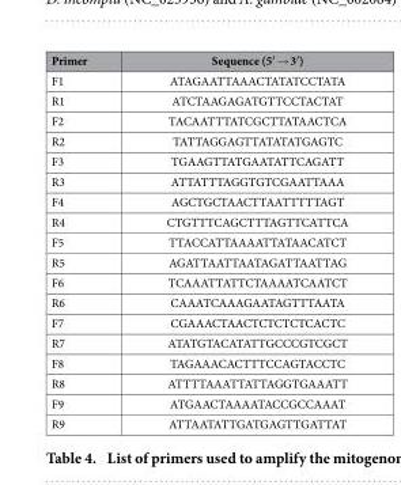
<table><thead><tr><td>Primer</td><td>Sequence (5′ → 3′ )</td></tr></thead><tbody><tr><td>F1</td><td>ATAGAATTAAACTATATCCTATA</td></tr><tr><td>R1</td><td>ATCTAAGAGATGTTCCTACTAT</td></tr><tr><td>F2</td><td>TACAATTTATCGCTTATAACTCA</td></tr><tr><td>R2</td><td>TATTAGGAGTTATATATGAGTC</td></tr><tr><td>F3</td><td>TGAAGTTATGAATATTCAGATT</td></tr><tr><td>R3</td><td>ATTATTTAGGTGTCGAATTAAA</td></tr><tr><td>F4</td><td>AGCTGCTAACTTAATTTTTAGT</td></tr><tr><td>R4</td><td>CTGTTTCAGCTTTAGTTCATTCA</td></tr><tr><td>F5</td><td>TTACCATTAAAATTATAACATCT</td></tr><tr><td>R5</td><td>AGATTAATTAATAGATTAATTAG</td></tr><tr><td>F6</td><td>TCAAATTATTCTAAAATCAATCT</td></tr><tr><td>R6</td><td>CAAATCAAAGAATAGTTTAATA</td></tr><tr><td>F7</td><td>CGAAACTAACTCTCTCTCACTC</td></tr><tr><td>R7</td><td>ATATGTACATATTGCCCGTCGCT</td></tr><tr><td>F8</td><td>TAGAAACACTTTCCAGTACCTC</td></tr><tr><td>R8</td><td>ATTTTAAATTATTAGGTGAAATT</td></tr><tr><td>F9</td><td>ATGAACTAAAATACCGCCAAAT</td></tr><tr><td>R9</td><td>ATTAATATTGATGAGTTGATTAT</td></tr></tbody></table>